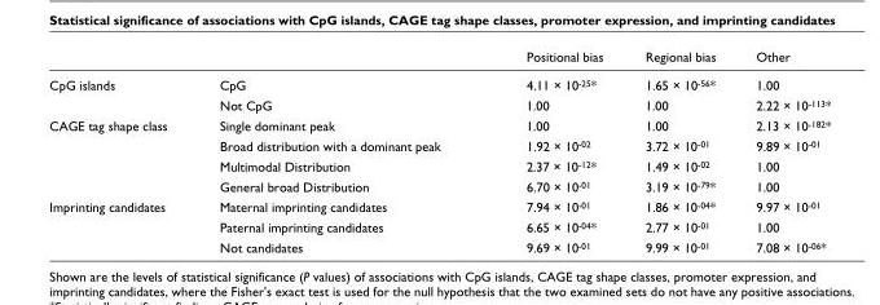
<table><thead><tr><td></td><td></td><td>Positional bias</td><td>Regional bias</td><td>Other</td></tr></thead><tbody><tr><td rowspan="2">CpG islands</td><td>CpG</td><td>4.11 × 10-25*</td><td>1.65 × 10-56*</td><td>1.00</td></tr><tr><td>Not CpG</td><td>1.00</td><td>1.00</td><td>2.22 × 10-113*</td></tr><tr><td rowspan="4">CAGE tag shape class</td><td>Single dominant peak</td><td>1.00</td><td>1.00</td><td>2.13 × 10-182*</td></tr><tr><td>Broad distribution with a dominant peak</td><td>1.92 × 10-02</td><td>3.72 × 10-01</td><td>9.89 × 10-01</td></tr><tr><td>Multimodal Distribution</td><td>2.37 × 10-12*</td><td>1.49 × 10-02</td><td>1.00</td></tr><tr><td>General broad Distribution</td><td>6.70 × 10-01</td><td>3.19 × 10-79*</td><td>1.00</td></tr><tr><td rowspan="3">Imprinting candidates</td><td>Maternal imprinting candidates</td><td>7.94 × 10-01</td><td>1.86 × 10-04*</td><td>9.97 × 10-01</td></tr><tr><td>Paternal imprinting candidates</td><td>6.65 × 10-04*</td><td>2.77 × 10-01</td><td>1.00</td></tr><tr><td>Not candidates</td><td>9.69 × 10-01</td><td>9.99 × 10-01</td><td>7.08 × 10-06*</td></tr></tbody></table>